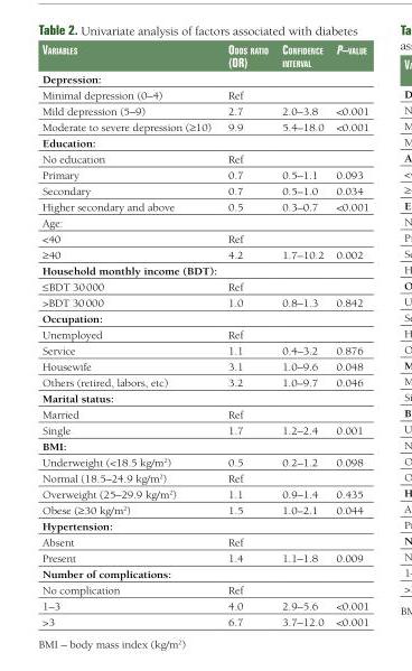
<table><thead><tr><td>Variables</td><td>odds ratio (or)</td><td>ConfidenCe interVal</td><td>P–Value</td></tr></thead><tbody><tr><td colspan="4">Depression:</td></tr><tr><td>Minimal depression (0–4)</td><td>Ref</td><td></td><td></td></tr><tr><td>Mild depression (5–9)</td><td>2.7</td><td>2.0–3.8</td><td>&lt;0.001</td></tr><tr><td>Moderate to severe depression (≥10)</td><td>9.9</td><td>5.4–18.0</td><td>&lt;0.001</td></tr><tr><td colspan="4">Education:</td></tr><tr><td>No education</td><td>Ref</td><td></td><td></td></tr><tr><td>Primary</td><td>0.7</td><td>0.5–1.1</td><td>0.093</td></tr><tr><td>Secondary</td><td>0.7</td><td>0.5–1.0</td><td>0.034</td></tr><tr><td>Higher secondary and above</td><td>0.5</td><td>0.3–0.7</td><td>&lt;0.001</td></tr><tr><td colspan="4">Age:</td></tr><tr><td>&lt;40</td><td>Ref</td><td></td><td></td></tr><tr><td>≥40</td><td>4.2</td><td>1.7–10.2</td><td>0.002</td></tr><tr><td colspan="4">Household monthly income (BDT):</td></tr><tr><td>≤BDT 30 000</td><td>Ref</td><td></td><td></td></tr><tr><td>&gt;BDT 30 000</td><td>1.0</td><td>0.8–1.3</td><td>0.842</td></tr><tr><td colspan="4">Occupation:</td></tr><tr><td>Unemployed</td><td>Ref</td><td></td><td></td></tr><tr><td>Service</td><td>1.1</td><td>0.4–3.2</td><td>0.876</td></tr><tr><td>Housewife</td><td>3.1</td><td>1.0–9.6</td><td>0.048</td></tr><tr><td>Others (retired, labors, etc)</td><td>3.2</td><td>1.0–9.7</td><td>0.046</td></tr><tr><td colspan="4">Marital status:</td></tr><tr><td>Married</td><td>Ref</td><td></td><td></td></tr><tr><td>Single</td><td>1.7</td><td>1.2–2.4</td><td>0.001</td></tr><tr><td colspan="4">BMI:</td></tr><tr><td>Underweight (&lt;18.5 kg/m<sup>2</sup>)</td><td>0.5</td><td>0.2–1.2</td><td>0.098</td></tr><tr><td>Normal (18.5–24.9 kg/m<sup>2</sup>)</td><td>Ref</td><td></td><td></td></tr><tr><td>Overweight (25–29.9 kg/m<sup>2</sup>)</td><td>1.1</td><td>0.9–1.4</td><td>0.435</td></tr><tr><td>Obese (≥30 kg/m<sup>2</sup>)</td><td>1.5</td><td>1.0–2.1</td><td>0.044</td></tr><tr><td colspan="4">Hypertension:</td></tr><tr><td>Absent</td><td>Ref</td><td></td><td></td></tr><tr><td>Present</td><td>1.4</td><td>1.1–1.8</td><td>0.009</td></tr><tr><td colspan="4">Number of complications:</td></tr><tr><td>No complication</td><td>Ref</td><td></td><td></td></tr><tr><td>1–3</td><td>4.0</td><td>2.9–5.6</td><td>&lt;0.001</td></tr><tr><td>&gt;3</td><td>6.7</td><td>3.7–12.0</td><td>&lt;0.001</td></tr></tbody></table>